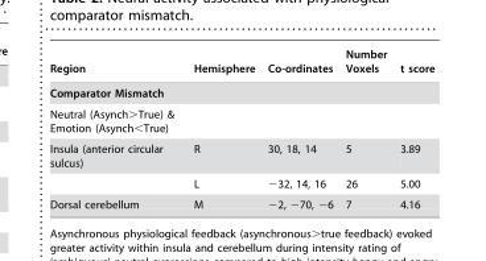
<table><thead><tr><td>Region</td><td>Hemisphere</td><td>Co-ordinates</td><td>Number Voxels</td><td>t score</td></tr></thead><tbody><tr><td colspan="5">Comparator Mismatch</td></tr><tr><td colspan="5">Neutral (Asynch&gt;True) &amp; Emotion (Asynch&lt;True)</td></tr><tr><td rowspan="2">Insula (anterior circular sulcus)</td><td>R</td><td>30, 18, 14</td><td>5</td><td>3.89</td></tr><tr><td>L</td><td>−32, 14, 16</td><td>26</td><td>5.00</td></tr><tr><td>Dorsal cerebellum</td><td>M</td><td>−2, −70, −6</td><td>7</td><td>4.16</td></tr></tbody></table>